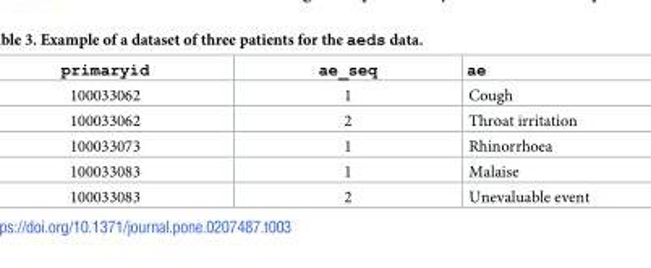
<table><thead><tr><td>primaryid</td><td>ae_seq</td><td>ae</td></tr></thead><tbody><tr><td>100033062</td><td>1</td><td>Cough</td></tr><tr><td>100033062</td><td>2</td><td>Throat irritation</td></tr><tr><td>100033073</td><td>1</td><td>Rhinorrhoea</td></tr><tr><td>100033083</td><td>1</td><td>Malaise</td></tr><tr><td>100033083</td><td>2</td><td>Unevaluable event</td></tr></tbody></table>